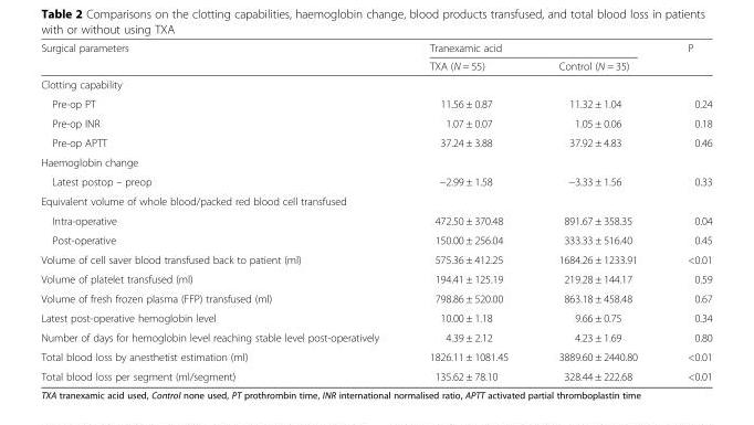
<table><thead><tr><td rowspan="2">Surgical parameters</td><td colspan="2">Tranexamic acid</td><td rowspan="2">P</td></tr><tr><td>TXA (N = 55)</td><td>Control (N = 35)</td></tr></thead><tbody><tr><td colspan="4">Clotting capability</td></tr><tr><td>Pre-op PT</td><td>11.56 ± 0.87</td><td>11.32 ± 1.04</td><td>0.24</td></tr><tr><td>Pre-op INR</td><td>1.07 ± 0.07</td><td>1.05 ± 0.06</td><td>0.18</td></tr><tr><td>Pre-op APTT</td><td>37.24 ± 3.88</td><td>37.92 ± 4.83</td><td>0.46</td></tr><tr><td colspan="4">Haemoglobin change</td></tr><tr><td>Latest postop – preop</td><td>−2.99 ± 1.58</td><td>−3.33 ± 1.56</td><td>0.33</td></tr><tr><td colspan="4">Equivalent volume of whole blood/packed red blood cell transfused</td></tr><tr><td>Intra-operative</td><td>472.50 ± 370.48</td><td>891.67 ± 358.35</td><td>0.04</td></tr><tr><td>Post-operative</td><td>150.00 ± 256.04</td><td>333.33 ± 516.40</td><td>0.45</td></tr><tr><td>Volume of cell saver blood transfused back to patient (ml)</td><td>575.36 ± 412.25</td><td>1684.26 ± 1233.91</td><td>&lt;0.01</td></tr><tr><td>Volume of platelet transfused (ml)</td><td>194.41 ± 125.19</td><td>219.28 ± 144.17</td><td>0.59</td></tr><tr><td>Volume of fresh frozen plasma (FFP) transfused (ml)</td><td>798.86 ± 520.00</td><td>863.18 ± 458.48</td><td>0.67</td></tr><tr><td>Latest post-operative hemoglobin level</td><td>10.00 ± 1.18</td><td>9.66 ± 0.75</td><td>0.34</td></tr><tr><td>Number of days for hemoglobin level reaching stable level post-operatively</td><td>4.39 ± 2.12</td><td>4.23 ± 1.69</td><td>0.80</td></tr><tr><td>Total blood loss by anesthetist estimation (ml)</td><td>1826.11 ± 1081.45</td><td>3889.60 ± 2440.80</td><td>&lt;0.01</td></tr><tr><td>Total blood loss per segment (ml/segment)</td><td>135.62 ± 78.10</td><td>328.44 ± 222.68</td><td>&lt;0.01</td></tr></tbody></table>